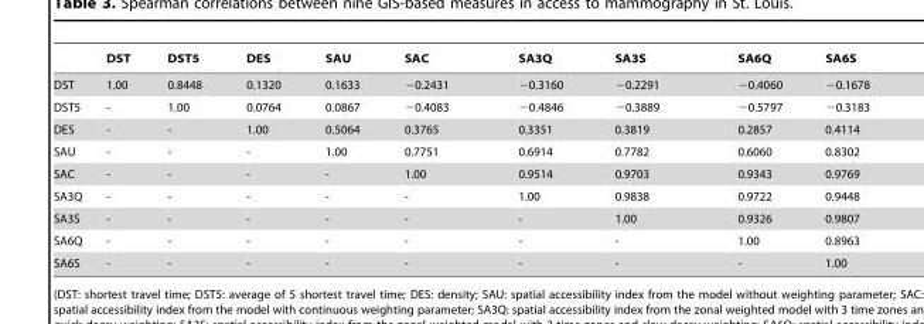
<table><thead><tr><td></td><td>DST</td><td>DST5</td><td>DES</td><td>SAU</td><td>SAC</td><td>SA3Q</td><td>SA3S</td><td>SA6Q</td><td>SA6S</td></tr></thead><tbody><tr><td>DST</td><td>1.00</td><td>0.8448</td><td>0.1320</td><td>0.1633</td><td>−0.2431</td><td>−0.3160</td><td>−0.2291</td><td>−0.4060</td><td>−0.1678</td></tr><tr><td>DST5</td><td>-</td><td>1.00</td><td>0.0764</td><td>0.0867</td><td>−0.4083</td><td>−0.4846</td><td>−0.3889</td><td>−0.5797</td><td>−0.3183</td></tr><tr><td>DES</td><td>-</td><td>-</td><td>1.00</td><td>0.5064</td><td>0.3765</td><td>0.3351</td><td>0.3819</td><td>0.2857</td><td>0.4114</td></tr><tr><td>SAU</td><td>-</td><td>-</td><td>-</td><td>1.00</td><td>0.7751</td><td>0.6914</td><td>0.7782</td><td>0.6060</td><td>0.8302</td></tr><tr><td>SAC</td><td>-</td><td>-</td><td>-</td><td>-</td><td>1.00</td><td>0.9514</td><td>0.9703</td><td>0.9343</td><td>0.9769</td></tr><tr><td>SA3Q</td><td>-</td><td>-</td><td>-</td><td>-</td><td>-</td><td>1.00</td><td>0.9838</td><td>0.9722</td><td>0.9448</td></tr><tr><td>SA3S</td><td>-</td><td>-</td><td>-</td><td>-</td><td>-</td><td>-</td><td>1.00</td><td>0.9326</td><td>0.9807</td></tr><tr><td>SA6Q</td><td>-</td><td>-</td><td>-</td><td>-</td><td>-</td><td>-</td><td>-</td><td>1.00</td><td>0.8963</td></tr><tr><td>SA6S</td><td>-</td><td>-</td><td>-</td><td>-</td><td>-</td><td>-</td><td>-</td><td>-</td><td>1.00</td></tr></tbody></table>